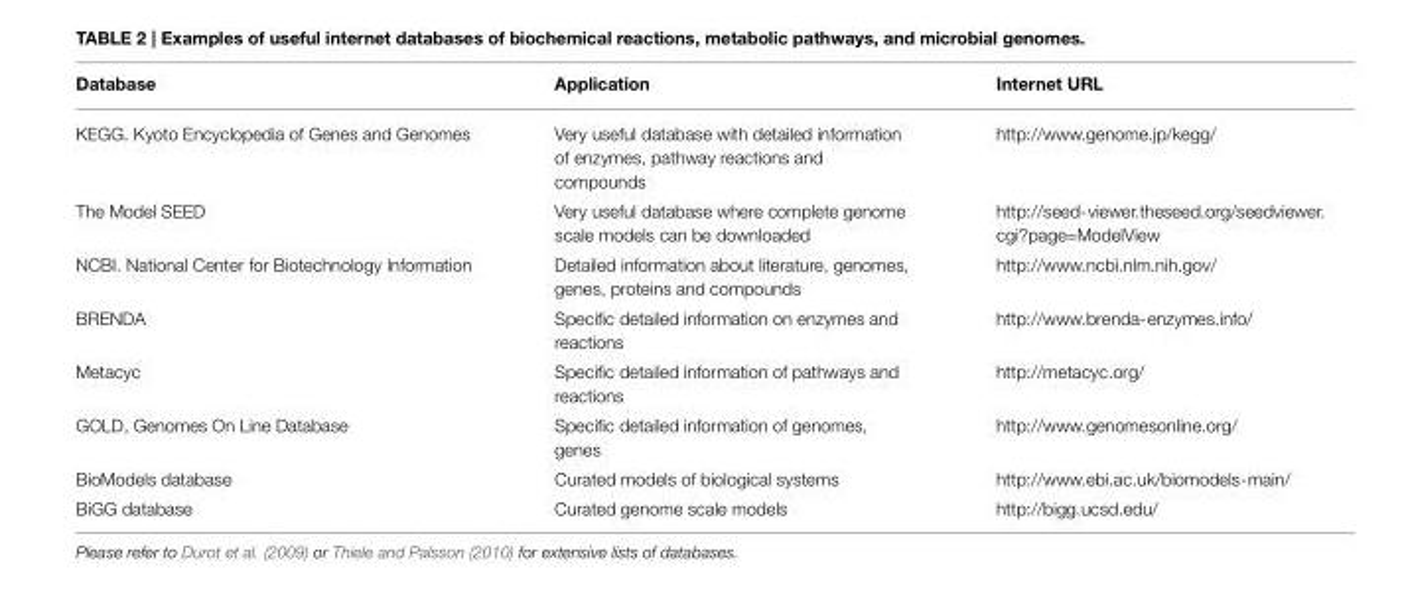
<table><thead><tr><td>Database</td><td>Application</td><td>Internet URL</td></tr></thead><tbody><tr><td>KEGG. Kyoto Encyclopedia of Genes and Genomes</td><td>Very useful database with detailed information of enzymes, pathway reactions and compounds</td><td>http://www.genome.jp/kegg/</td></tr><tr><td>The Model SEED</td><td>Very useful database where complete genome scale models can be downloaded</td><td>http://seed-viewer.theseed.org/seedviewer. cgi?page=ModelView</td></tr><tr><td>NCBI. National Center for Biotechnology Information</td><td>Detailed information about literature, genomes, genes, proteins and compounds</td><td>http://www.ncbi.nlm.nih.gov/</td></tr><tr><td>BRENDA</td><td>Specific detailed information on enzymes and reactions</td><td>http://www.brenda-enzymes.info/</td></tr><tr><td>Metacyc</td><td>Specific detailed information of pathways and reactions</td><td>http://metacyc.org/</td></tr><tr><td>GOLD, Genomes On Line Database</td><td>Specific detailed information of genomes, genes</td><td>http://www.genomesonline.org/</td></tr><tr><td>BioModels database</td><td>Curated models of biological systems</td><td>http://www.ebi.ac.uk/biomodels-main/</td></tr><tr><td>BiGG database</td><td>Curated genome scale models</td><td>http://bigg.ucsd.edu/</td></tr></tbody></table>